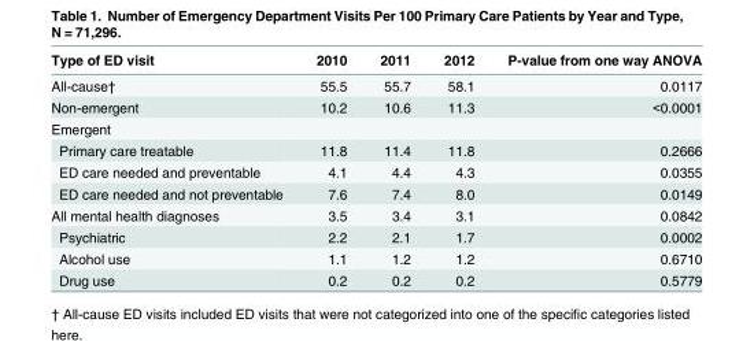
<table><thead><tr><td>Type of ED visit</td><td>2010</td><td>2011</td><td>2012</td><td>P-value from one way ANOVA</td></tr></thead><tbody><tr><td>All-cause†</td><td>55.5</td><td>55.7</td><td>58.1</td><td>0.0117</td></tr><tr><td>Non-emergent</td><td>10.2</td><td>10.6</td><td>11.3</td><td>&lt;0.0001</td></tr><tr><td colspan="5">Emergent</td></tr><tr><td>Primary care treatable</td><td>11.8</td><td>11.4</td><td>11.8</td><td>0.2666</td></tr><tr><td>ED care needed and preventable</td><td>4.1</td><td>4.4</td><td>4.3</td><td>0.0355</td></tr><tr><td>ED care needed and not preventable</td><td>7.6</td><td>7.4</td><td>8.0</td><td>0.0149</td></tr><tr><td>All mental health diagnoses</td><td>3.5</td><td>3.4</td><td>3.1</td><td>0.0842</td></tr><tr><td>Psychiatric</td><td>2.2</td><td>2.1</td><td>1.7</td><td>0.0002</td></tr><tr><td>Alcohol use</td><td>1.1</td><td>1.2</td><td>1.2</td><td>0.6710</td></tr><tr><td>Drug use</td><td>0.2</td><td>0.2</td><td>0.2</td><td>0.5779</td></tr></tbody></table>